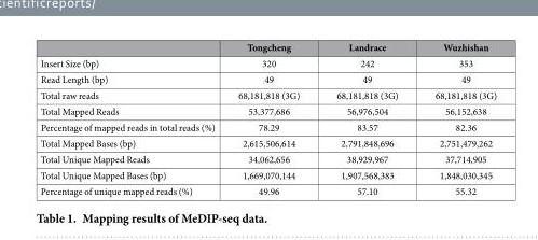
<table><thead><tr><td></td><td>Tongcheng</td><td>Landrace</td><td>Wuzhishan</td></tr></thead><tbody><tr><td>Insert Size (bp)</td><td>320</td><td>242</td><td>353</td></tr><tr><td>Read Length (bp)</td><td>49</td><td>49</td><td>49</td></tr><tr><td>Total raw reads</td><td>68,181,818 (3G)</td><td>68,181,818 (3G)</td><td>68,181,818 (3G)</td></tr><tr><td>Total Mapped Reads</td><td>53,377,686</td><td>56,976,504</td><td>56,152,638</td></tr><tr><td>Percentage of mapped reads in total reads (%)</td><td>78.29</td><td>83.57</td><td>82.36</td></tr><tr><td>Total Mapped Bases (bp)</td><td>2,615,506,614</td><td>2,791,848,696</td><td>2,751,479,262</td></tr><tr><td>Total Unique Mapped Reads</td><td>34,062,656</td><td>38,929,967</td><td>37,714,905</td></tr><tr><td>Total Unique Mapped Bases (bp)</td><td>1,669,070,144</td><td>1,907,568,383</td><td>1,848,030,345</td></tr><tr><td>Percentage of unique mapped reads (%)</td><td>49.96</td><td>57.10</td><td>55.32</td></tr></tbody></table>